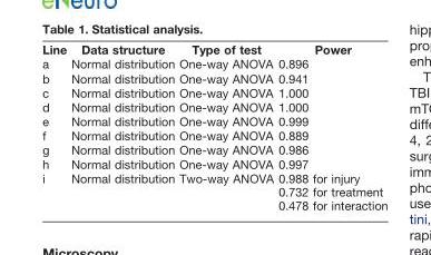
<table><thead><tr><td>Line</td><td>Data structure</td><td>Type of test</td><td>Power</td></tr></thead><tbody><tr><td>a</td><td>Normal distribution</td><td>One-way ANOVA</td><td>0.896</td></tr><tr><td>b</td><td>Normal distribution</td><td>One-way ANOVA</td><td>0.941</td></tr><tr><td>c</td><td>Normal distribution</td><td>One-way ANOVA</td><td>1.000</td></tr><tr><td>d</td><td>Normal distribution</td><td>One-way ANOVA</td><td>1.000</td></tr><tr><td>e</td><td>Normal distribution</td><td>One-way ANOVA</td><td>0.999</td></tr><tr><td>f</td><td>Normal distribution</td><td>One-way ANOVA</td><td>0.889</td></tr><tr><td>g</td><td>Normal distribution</td><td>One-way ANOVA</td><td>0.986</td></tr><tr><td>h</td><td>Normal distribution</td><td>One-way ANOVA</td><td>0.997</td></tr><tr><td>i</td><td>Normal distribution</td><td>Two-way ANOVA</td><td>0.988 for injury 0.732 for treatment 0.478 for interaction</td></tr></tbody></table>